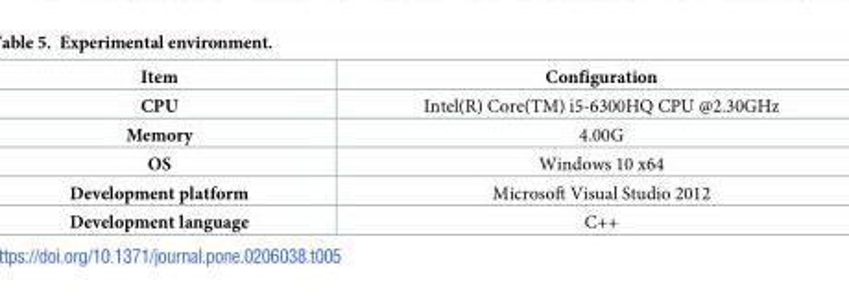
<table><thead><tr><td>Item</td><td>Configuration</td></tr></thead><tbody><tr><td>CPU</td><td>Intel(R) Core(TM) i5-6300HQ CPU @2.30GHz</td></tr><tr><td>Memory</td><td>4.00G</td></tr><tr><td>OS</td><td>Windows 10 x64</td></tr><tr><td>Development platform</td><td>Microsoft Visual Studio 2012</td></tr><tr><td>Development language</td><td>C++</td></tr></tbody></table>